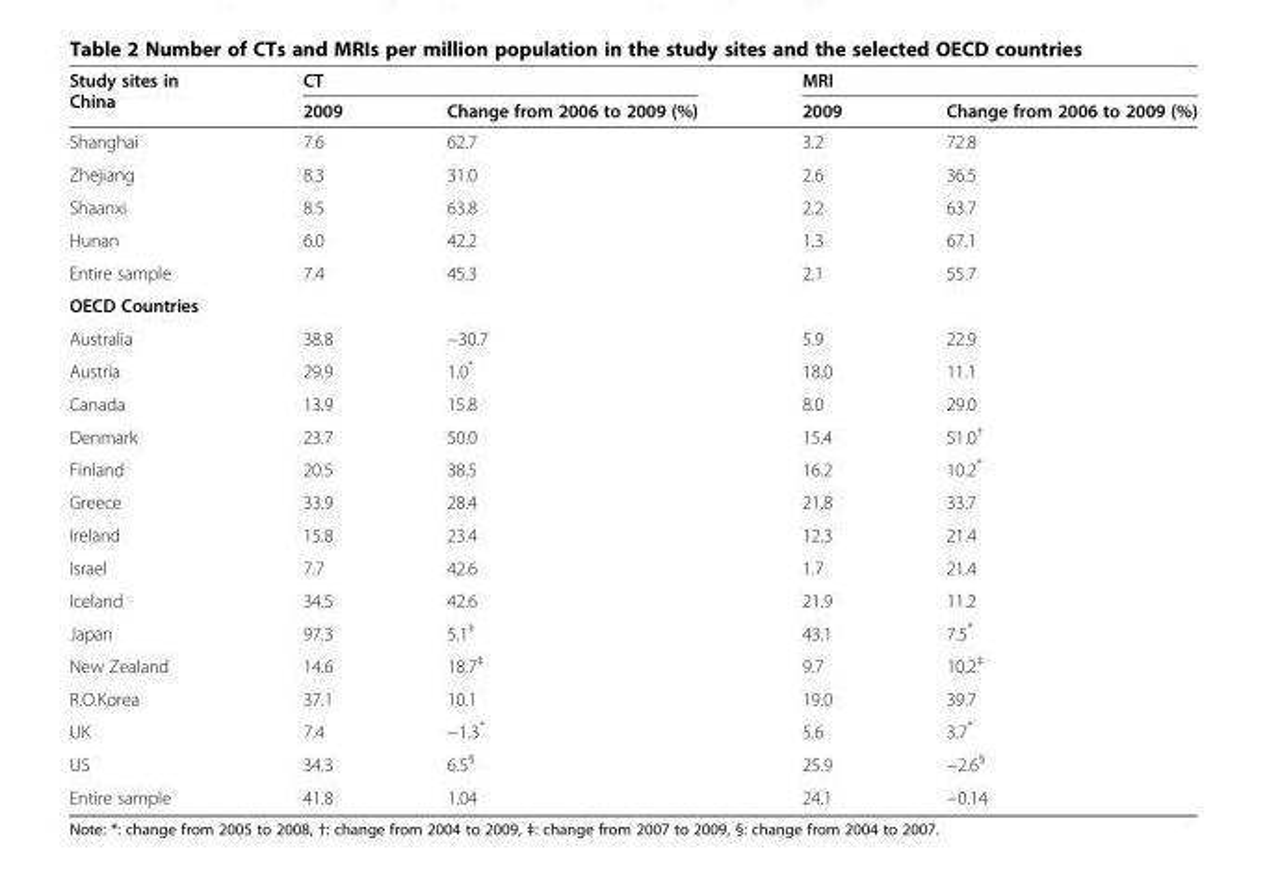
<table><thead><tr><td rowspan="2">Study sites in China</td><td colspan="2">CT</td><td colspan="2">MRI</td></tr><tr><td>2009</td><td>Change from 2006 to 2009 (%)</td><td>2009</td><td>Change from 2006 to 2009 (%)</td></tr></thead><tbody><tr><td>Shanghai</td><td>7.6</td><td>62.7</td><td>3.2</td><td>72.8</td></tr><tr><td>Zhejiang</td><td>8.3</td><td>31.0</td><td>2.6</td><td>36.5</td></tr><tr><td>Shaanxi</td><td>8.5</td><td>63.8</td><td>2.2</td><td>63.7</td></tr><tr><td>Hunan</td><td>6.0</td><td>42.2</td><td>1.3</td><td>67.1</td></tr><tr><td>Entire sample</td><td>7.4</td><td>45.3</td><td>2.1</td><td>55.7</td></tr><tr><td colspan="5">OECD Countries</td></tr><tr><td>Australia</td><td>38.8</td><td>−30.7</td><td>5.9</td><td>22.9</td></tr><tr><td>Austria</td><td>29.9</td><td>1.0*</td><td>18.0</td><td>11.1</td></tr><tr><td>Canada</td><td>13.9</td><td>15.8</td><td>8.0</td><td>29.0</td></tr><tr><td>Denmark</td><td>23.7</td><td>50.0</td><td>15.4</td><td>51.0<sup>†</sup></td></tr><tr><td>Finland</td><td>20.5</td><td>38.5</td><td>16.2</td><td>10.2*</td></tr><tr><td>Greece</td><td>33.9</td><td>28.4</td><td>21.8</td><td>33.7</td></tr><tr><td>Ireland</td><td>15.8</td><td>23.4</td><td>12.3</td><td>21.4</td></tr><tr><td>Israel</td><td>7.7</td><td>42.6</td><td>1.7</td><td>21.4</td></tr><tr><td>Iceland</td><td>34.5</td><td>42.6</td><td>21.9</td><td>11.2</td></tr><tr><td>Japan</td><td>97.3</td><td>5.1<sup>‡</sup></td><td>43.1</td><td>7.5*</td></tr><tr><td>New Zealand</td><td>14.6</td><td>18.7<sup>‡</sup></td><td>9.7</td><td>10.2<sup>‡</sup></td></tr><tr><td>R.O.Korea</td><td>37.1</td><td>10.1</td><td>19.0</td><td>39.7</td></tr><tr><td>UK</td><td>7.4</td><td>−1.3*</td><td>5.6</td><td>3.7*</td></tr><tr><td>US</td><td>34.3</td><td>6.5<sup>§</sup></td><td>25.9</td><td>−2.6<sup>§</sup></td></tr><tr><td>Entire sample</td><td>41.8</td><td>1.04</td><td>24.1</td><td>−0.14</td></tr></tbody></table>